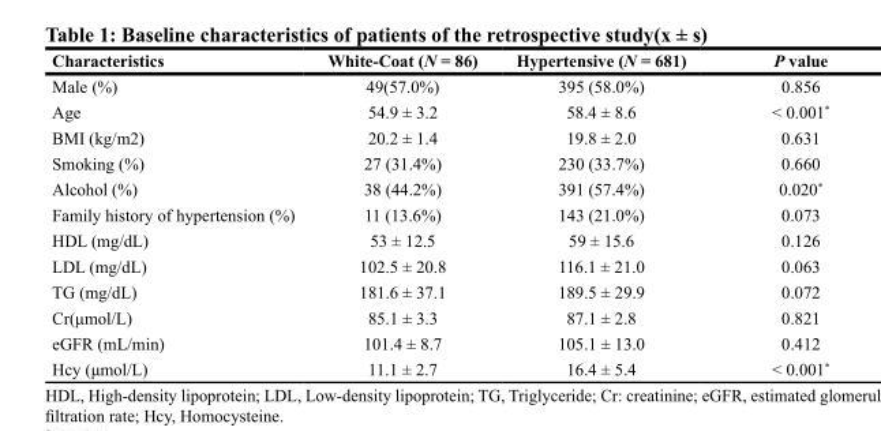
<table><thead><tr><td>Characteristics</td><td>White-Coat (N = 86)</td><td>Hypertensive (N = 681)</td><td>P value</td></tr></thead><tbody><tr><td>Male (%)</td><td>49(57.0%)</td><td>395 (58.0%)</td><td>0.856</td></tr><tr><td>Age</td><td>54.9 ± 3.2</td><td>58.4 ± 8.6</td><td>&lt; 0.001*</td></tr><tr><td>BMI (kg/m2)</td><td>20.2 ± 1.4</td><td>19.8 ± 2.0</td><td>0.631</td></tr><tr><td>Smoking (%)</td><td>27 (31.4%)</td><td>230 (33.7%)</td><td>0.660</td></tr><tr><td>Alcohol (%)</td><td>38 (44.2%)</td><td>391 (57.4%)</td><td>0.020*</td></tr><tr><td>Family history of hypertension (%)</td><td>11 (13.6%)</td><td>143 (21.0%)</td><td>0.073</td></tr><tr><td>HDL (mg/dL)</td><td>53 ± 12.5</td><td>59 ± 15.6</td><td>0.126</td></tr><tr><td>LDL (mg/dL)</td><td>102.5 ± 20.8</td><td>116.1 ± 21.0</td><td>0.063</td></tr><tr><td>TG (mg/dL)</td><td>181.6 ± 37.1</td><td>189.5 ± 29.9</td><td>0.072</td></tr><tr><td>Cr(μmol/L)</td><td>85.1 ± 3.3</td><td>87.1 ± 2.8</td><td>0.821</td></tr><tr><td>eGFR (mL/min)</td><td>101.4 ± 8.7</td><td>105.1 ± 13.0</td><td>0.412</td></tr><tr><td>Hcy (μmol/L)</td><td>11.1 ± 2.7</td><td>16.4 ± 5.4</td><td>&lt; 0.001*</td></tr></tbody></table>